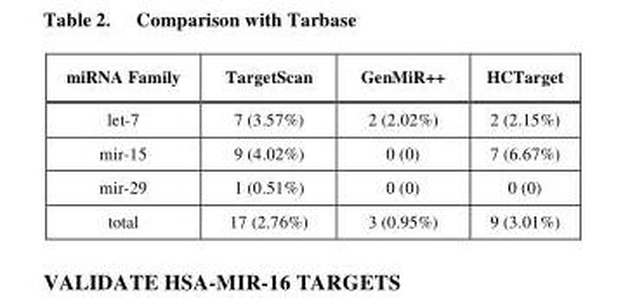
<table><thead><tr><td>miRNA Family</td><td>TargetScan</td><td>GenMiR++</td><td>HCTarget</td></tr></thead><tbody><tr><td>let-7</td><td>7 (3.57%)</td><td>2 (2.02%)</td><td>2 (2.15%)</td></tr><tr><td>mir-15</td><td>9 (4.02%)</td><td>0 (0)</td><td>7 (6.67%)</td></tr><tr><td>mir-29</td><td>1 (0.51%)</td><td>0 (0)</td><td>0 (0)</td></tr><tr><td>total</td><td>17 (2.76%)</td><td>3 (0.95%)</td><td>9 (3.01%)</td></tr></tbody></table>